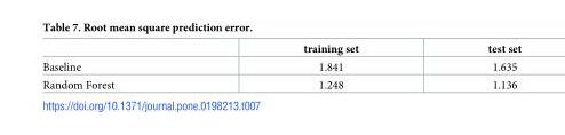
<table><thead><tr><td></td><td>training set</td><td>test set</td></tr></thead><tbody><tr><td>Baseline</td><td>1.841</td><td>1.635</td></tr><tr><td>Random Forest</td><td>1.248</td><td>1.136</td></tr></tbody></table>